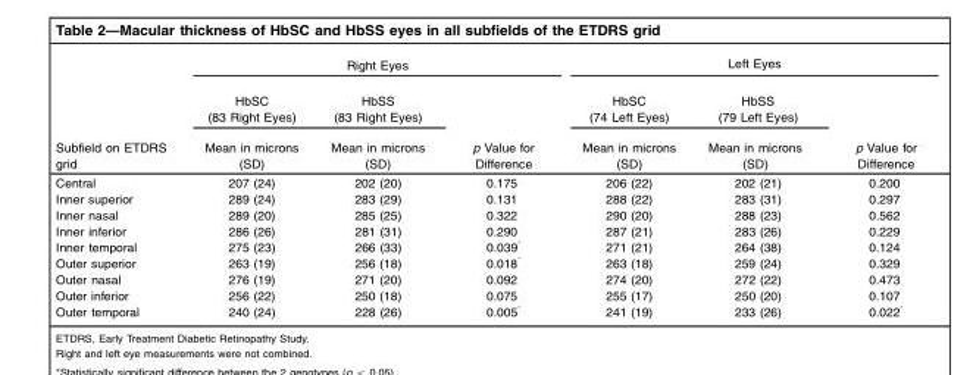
<table><thead><tr><td rowspan="3">Subfield on ETDRS grid</td><td colspan="3">Right Eyes</td><td colspan="3">Left Eyes</td></tr><tr><td rowspan="2">HbSC (83 Right Eyes) Mean in microns (SD)</td><td rowspan="2">HbSS (83 Right Eyes) Mean in microns (SD)</td><td rowspan="2">p Value for Difference</td><td rowspan="2">HbSC (74 Left Eyes) Mean in microns (SD)</td><td rowspan="2">HbSS (79 Left Eyes) Mean in microns (SD)</td><td rowspan="2">p Value for Difference</td></tr><tr></tr></thead><tbody><tr><td>Central</td><td>207 (24)</td><td>202 (20)</td><td>0.175</td><td>206 (22)</td><td>202 (21)</td><td>0.200</td></tr><tr><td>Inner superior</td><td>289 (24)</td><td>283 (29)</td><td>0.131</td><td>288 (22)</td><td>283 (31)</td><td>0.297</td></tr><tr><td>Inner nasal</td><td>289 (20)</td><td>285 (25)</td><td>0.322</td><td>290 (20)</td><td>288 (23)</td><td>0.562</td></tr><tr><td>Inner inferior</td><td>286 (26)</td><td>281 (31)</td><td>0.290</td><td>287 (21)</td><td>283 (26)</td><td>0.229</td></tr><tr><td>Inner temporal</td><td>275 (23)</td><td>266 (33)</td><td>0.039*</td><td>271 (21)</td><td>264 (38)</td><td>0.124</td></tr><tr><td>Outer superior</td><td>263 (19)</td><td>256 (18)</td><td>0.018*</td><td>263 (18)</td><td>259 (24)</td><td>0.329</td></tr><tr><td>Outer nasal</td><td>276 (19)</td><td>271 (20)</td><td>0.092</td><td>274 (20)</td><td>272 (22)</td><td>0.473</td></tr><tr><td>Outer inferior</td><td>256 (22)</td><td>250 (18)</td><td>0.075</td><td>255 (17)</td><td>250 (20)</td><td>0.107</td></tr><tr><td>Outer temporal</td><td>240 (24)</td><td>228 (26)</td><td>0.005*</td><td>241 (19)</td><td>233 (26)</td><td>0.022*</td></tr></tbody></table>